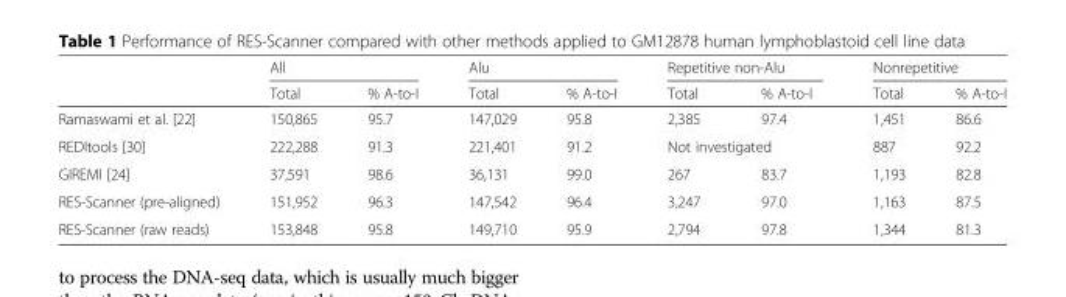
<table><thead><tr><td rowspan="2"></td><td colspan="2">All</td><td colspan="2">Alu</td><td colspan="2">Repetitive non-Alu</td><td colspan="2">Nonrepetitive</td></tr><tr><td>Total</td><td>% A-to-I</td><td>Total</td><td>% A-to-I</td><td>Total</td><td>% A-to-I</td><td>Total</td><td>% A-to-I</td></tr></thead><tbody><tr><td>Ramaswami et al. [22]</td><td>150,865</td><td>95.7</td><td>147,029</td><td>95.8</td><td>2,385</td><td>97.4</td><td>1,451</td><td>86.6</td></tr><tr><td>REDItools [30]</td><td>222,288</td><td>91.3</td><td>221,401</td><td>91.2</td><td colspan="2">Not investigated</td><td>887</td><td>92.2</td></tr><tr><td>GIREMI [24]</td><td>37,591</td><td>98.6</td><td>36,131</td><td>99.0</td><td>267</td><td>83.7</td><td>1,193</td><td>82.8</td></tr><tr><td>RES-Scanner (pre-aligned)</td><td>151,952</td><td>96.3</td><td>147,542</td><td>96.4</td><td>3,247</td><td>97.0</td><td>1,163</td><td>87.5</td></tr><tr><td>RES-Scanner (raw reads)</td><td>153,848</td><td>95.8</td><td>149,710</td><td>95.9</td><td>2,794</td><td>97.8</td><td>1,344</td><td>81.3</td></tr></tbody></table>